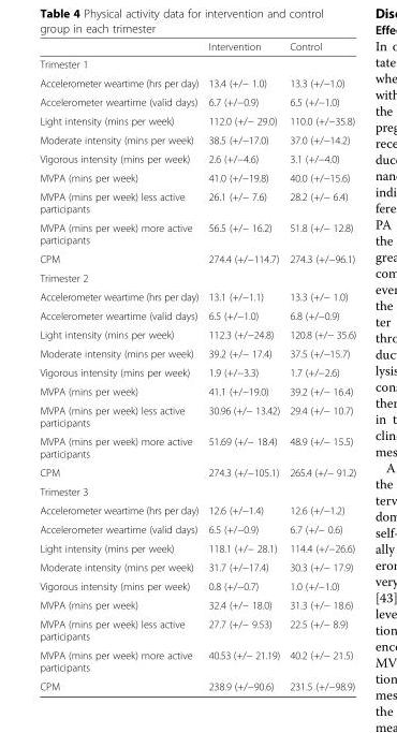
<table><thead><tr><td></td><td>Intervention</td><td>Control</td></tr></thead><tbody><tr><td colspan="3">Trimester 1</td></tr><tr><td>Accelerometer weartime (hrs per day)</td><td>13.4 (+/− 1.0)</td><td>13.3 (+/−1.0)</td></tr><tr><td>Accelerometer weartime (valid days)</td><td>6.7 (+/−0.9)</td><td>6.5 (+/−1.0)</td></tr><tr><td>Light intensity (mins per week)</td><td>112.0 (+/− 29.0)</td><td>110.0 (+/−35.8)</td></tr><tr><td>Moderate intensity (mins per week)</td><td>38.5 (+/−17.0)</td><td>37.0 (+/−14.2)</td></tr><tr><td>Vigorous intensity (mins per week)</td><td>2.6 (+/−4.6)</td><td>3.1 (+/−4.0)</td></tr><tr><td>MVPA (mins per week)</td><td>41.0 (+/−19.8)</td><td>40.0 (+/−15.6)</td></tr><tr><td>MVPA (mins per week) less active participants</td><td>26.1 (+/− 7.6)</td><td>28.2 (+/− 6.4)</td></tr><tr><td>MVPA (mins per week) more active participants</td><td>56.5 (+/− 16.2)</td><td>51.8 (+/− 12.8)</td></tr><tr><td>CPM</td><td>274.4 (+/−114.7)</td><td>274.3 (+/−96.1)</td></tr><tr><td colspan="3">Trimester 2</td></tr><tr><td>Accelerometer weartime (hrs per day)</td><td>13.1 (+/−1.1)</td><td>13.3 (+/− 1.0)</td></tr><tr><td>Accelerometer weartime (valid days)</td><td>6.5 (+/−1.0)</td><td>6.8 (+/−0.9)</td></tr><tr><td>Light intensity (mins per week)</td><td>112.3 (+/−24.8)</td><td>120.8 (+/− 35.6)</td></tr><tr><td>Moderate intensity (mins per week)</td><td>39.2 (+/− 17.4)</td><td>37.5 (+/−15.7)</td></tr><tr><td>Vigorous intensity (mins per week)</td><td>1.9 (+/−3.3)</td><td>1.7 (+/−2.6)</td></tr><tr><td>MVPA (mins per week)</td><td>41.1 (+/−19.0)</td><td>39.2 (+/− 16.4)</td></tr><tr><td>MVPA (mins per week) less active participants</td><td>30.96 (+/− 13.42)</td><td>29.4 (+/− 10.7)</td></tr><tr><td>MVPA (mins per week) more active participants</td><td>51.69 (+/− 18.4)</td><td>48.9 (+/− 15.5)</td></tr><tr><td>CPM</td><td>274.3 (+/−105.1)</td><td>265.4 (+/− 91.2)</td></tr><tr><td colspan="3">Trimester 3</td></tr><tr><td>Accelerometer weartime (hrs per day)</td><td>12.6 (+/−1.4)</td><td>12.6 (+/−1.2)</td></tr><tr><td>Accelerometer weartime (valid days)</td><td>6.5 (+/−0.9)</td><td>6.7 (+/− 0.6)</td></tr><tr><td>Light intensity (mins per week)</td><td>118.1 (+/− 28.1)</td><td>114.4 (+/−26.6)</td></tr><tr><td>Moderate intensity (mins per week)</td><td>31.7 (+/−17.4)</td><td>30.3 (+/− 17.9)</td></tr><tr><td>Vigorous intensity (mins per week)</td><td>0.8 (+/−0.7)</td><td>1.0 (+/−1.0)</td></tr><tr><td>MVPA (mins per week)</td><td>32.4 (+/− 18.0)</td><td>31.3 (+/− 18.6)</td></tr><tr><td>MVPA (mins per week) less active participants</td><td>27.7 (+/− 9.53)</td><td>22.5 (+/− 8.9)</td></tr><tr><td>MVPA (mins per week) more active participants</td><td>40.53 (+/− 21.19)</td><td>40.2 (+/− 21.5)</td></tr><tr><td>CPM</td><td>238.9 (+/−90.6)</td><td>231.5 (+/−98.9)</td></tr></tbody></table>